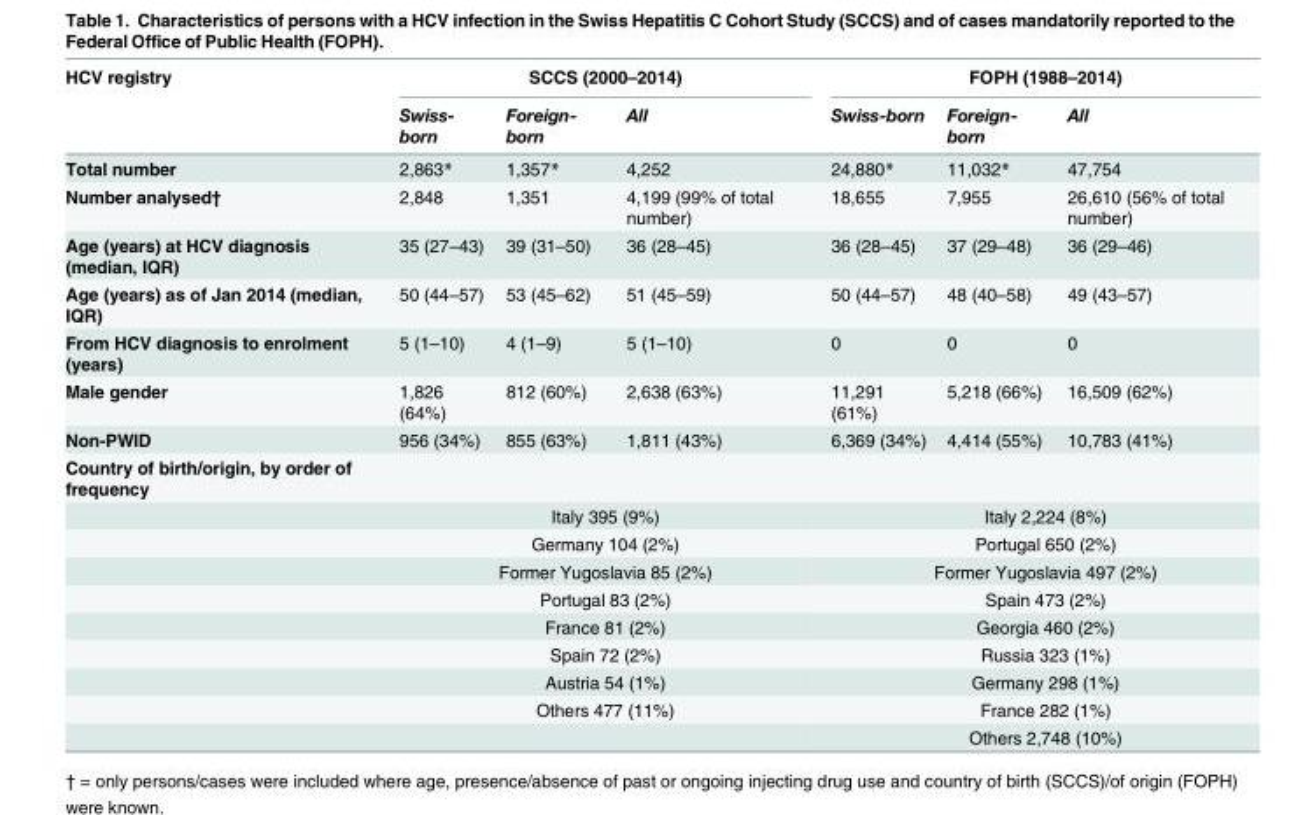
<table><thead><tr><td rowspan="2">HCV registry</td><td colspan="3">SCCS (2000–2014)</td><td colspan="3">FOPH (1988–2014)</td></tr><tr><td>Swiss- born</td><td>Foreign- born</td><td>All</td><td>Swiss-born</td><td>Foreign- born</td><td>All</td></tr></thead><tbody><tr><td>Total number</td><td>2,863*</td><td>1,357*</td><td>4,252</td><td>24,880*</td><td>11,032*</td><td>47,754</td></tr><tr><td>Number analysed†</td><td>2,848</td><td>1,351</td><td>4,199 (99% of total number)</td><td>18,655</td><td>7,955</td><td>26,610 (56% of total number)</td></tr><tr><td>Age (years) at HCV diagnosis (median, IQR)</td><td>35 (27–43)</td><td>39 (31–50)</td><td>36 (28–45)</td><td>36 (28–45)</td><td>37 (29–48)</td><td>36 (29–46)</td></tr><tr><td>Age (years) as of Jan 2014 (median, IQR)</td><td>50 (44–57)</td><td>53 (45–62)</td><td>51 (45–59)</td><td>50 (44–57)</td><td>48 (40–58)</td><td>49 (43–57)</td></tr><tr><td>From HCV diagnosis to enrolment (years)</td><td>5 (1–10)</td><td>4 (1–9)</td><td>5 (1–10)</td><td>0</td><td>0</td><td>0</td></tr><tr><td>Male gender</td><td>1,826 (64%)</td><td>812 (60%)</td><td>2,638 (63%)</td><td>11,291 (61%)</td><td>5,218 (66%)</td><td>16,509 (62%)</td></tr><tr><td>Non-PWID</td><td>956 (34%)</td><td>855 (63%)</td><td>1,811 (43%)</td><td>6,369 (34%)</td><td>4,414 (55%)</td><td>10,783 (41%)</td></tr><tr><td colspan="7">Country of birth/origin, by order of frequency</td></tr><tr><td></td><td colspan="3">Italy 395 (9%)</td><td colspan="3">Italy 2,224 (8%)</td></tr><tr><td></td><td colspan="3">Germany 104 (2%)</td><td colspan="3">Portugal 650 (2%)</td></tr><tr><td></td><td colspan="3">Former Yugoslavia 85 (2%)</td><td colspan="3">Former Yugoslavia 497 (2%)</td></tr><tr><td></td><td colspan="3">Portugal 83 (2%)</td><td colspan="3">Spain 473 (2%)</td></tr><tr><td></td><td colspan="3">France 81 (2%)</td><td colspan="3">Georgia 460 (2%)</td></tr><tr><td></td><td colspan="3">Spain 72 (2%)</td><td colspan="3">Russia 323 (1%)</td></tr><tr><td></td><td colspan="3">Austria 54 (1%)</td><td colspan="3">Germany 298 (1%)</td></tr><tr><td></td><td colspan="3">Others 477 (11%)</td><td colspan="3">France 282 (1%)</td></tr><tr><td></td><td colspan="3"></td><td colspan="3">Others 2,748 (10%)</td></tr></tbody></table>